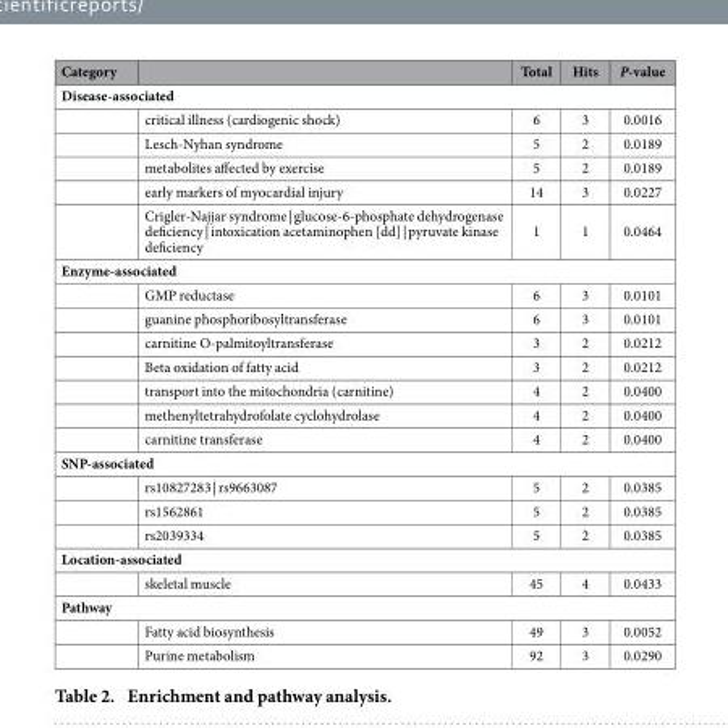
<table><thead><tr><td>Category</td><td></td><td>Total</td><td>Hits</td><td>P-value</td></tr></thead><tbody><tr><td colspan="5">Disease-associated</td></tr><tr><td></td><td>critical illness (cardiogenic shock)</td><td>6</td><td>3</td><td>0.0016</td></tr><tr><td></td><td>Lesch-Nyhan syndrome</td><td>5</td><td>2</td><td>0.0189</td></tr><tr><td></td><td>metabolites affected by exercise</td><td>5</td><td>2</td><td>0.0189</td></tr><tr><td></td><td>early markers of myocardial injury</td><td>14</td><td>3</td><td>0.0227</td></tr><tr><td></td><td>Crigler-Najjar syndrome | glucose-6-phosphate dehydrogenase deficiency | intoxication acetaminophen [dd] | pyruvate kinase deficiency</td><td>1</td><td>1</td><td>0.0464</td></tr><tr><td colspan="5">Enzyme-associated</td></tr><tr><td></td><td>GMP reductase</td><td>6</td><td>3</td><td>0.0101</td></tr><tr><td></td><td>guanine phosphoribosyltransferase</td><td>6</td><td>3</td><td>0.0101</td></tr><tr><td></td><td>carnitine O-palmitoyltransferase</td><td>3</td><td>2</td><td>0.0212</td></tr><tr><td></td><td>Beta oxidation of fatty acid</td><td>3</td><td>2</td><td>0.0212</td></tr><tr><td></td><td>transport into the mitochondria (carnitine)</td><td>4</td><td>2</td><td>0.0400</td></tr><tr><td></td><td>methenyltetrahydrofolate cyclohydrolase</td><td>4</td><td>2</td><td>0.0400</td></tr><tr><td></td><td>carnitine transferase</td><td>4</td><td>2</td><td>0.0400</td></tr><tr><td colspan="5">SNP-associated</td></tr><tr><td></td><td>rs10827283 | rs9663087</td><td>5</td><td>2</td><td>0.0385</td></tr><tr><td></td><td>rs1562861</td><td>5</td><td>2</td><td>0.0385</td></tr><tr><td></td><td>rs2039334</td><td>5</td><td>2</td><td>0.0385</td></tr><tr><td colspan="5">Location-associated</td></tr><tr><td></td><td>skeletal muscle</td><td>45</td><td>4</td><td>0.0433</td></tr><tr><td colspan="5">Pathway</td></tr><tr><td></td><td>Fatty acid biosynthesis</td><td>49</td><td>3</td><td>0.0052</td></tr><tr><td></td><td>Purine metabolism</td><td>92</td><td>3</td><td>0.0290</td></tr></tbody></table>